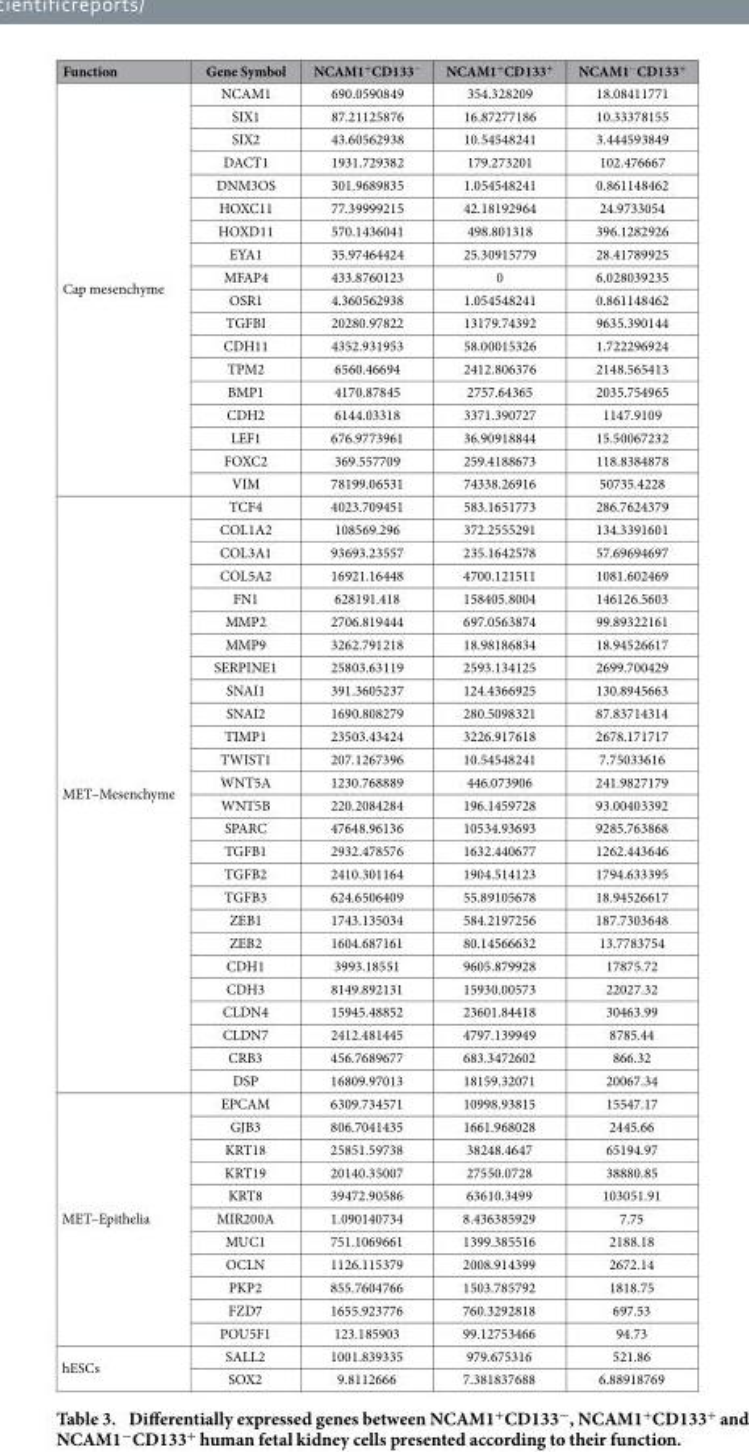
<table><thead><tr><td>Function</td><td>Gene Symbol</td><td>NCAM1<sup>+</sup>CD133<sup>−</sup></td><td>NCAM1<sup>+</sup>CD133<sup>+</sup></td><td>NCAM1<sup>−</sup>CD133<sup>+</sup></td></tr></thead><tbody><tr><td rowspan="18">Cap mesenchyme</td><td>NCAM1</td><td>690.0590849</td><td>354.328209</td><td>18.08411771</td></tr><tr><td>SIX1</td><td>87.21125876</td><td>16.87277186</td><td>10.33378155</td></tr><tr><td>SIX2</td><td>43.60562938</td><td>10.54548241</td><td>3.444593849</td></tr><tr><td>DACT1</td><td>1931.729382</td><td>179.273201</td><td>102.476667</td></tr><tr><td>DNM3OS</td><td>301.9689835</td><td>1.054548241</td><td>0.861148462</td></tr><tr><td>HOXC11</td><td>77.39999215</td><td>42.18192964</td><td>24.9733054</td></tr><tr><td>HOXD11</td><td>570.1436041</td><td>498.801318</td><td>396.1282926</td></tr><tr><td>EYA1</td><td>35.97464424</td><td>25.30915779</td><td>28.41789925</td></tr><tr><td>MFAP4</td><td>433.8760123</td><td>0</td><td>6.028039235</td></tr><tr><td>OSR1</td><td>4.360562938</td><td>1.054548241</td><td>0.861148462</td></tr><tr><td>TGFBI</td><td>20280.97822</td><td>13179.74392</td><td>9635.390144</td></tr><tr><td>CDH11</td><td>4352.931953</td><td>58.00015326</td><td>1.722296924</td></tr><tr><td>TPM2</td><td>6560.46694</td><td>2412.806376</td><td>2148.565413</td></tr><tr><td>BMP1</td><td>4170.87845</td><td>2757.64365</td><td>2035.754965</td></tr><tr><td>CDH2</td><td>6144.03318</td><td>3371.390727</td><td>1147.9109</td></tr><tr><td>LEF1</td><td>676.9773961</td><td>36.90918844</td><td>15.50067232</td></tr><tr><td>FOXC2</td><td>369.557709</td><td>259.4188673</td><td>118.8384878</td></tr><tr><td>VIM</td><td>78199.06531</td><td>74338.26916</td><td>50735.4228</td></tr><tr><td rowspan="26">MET–Mesenchyme</td><td>TCF4</td><td>4023.709451</td><td>583.1651773</td><td>286.7624379</td></tr><tr><td>COL1A2</td><td>108569.296</td><td>372.2555291</td><td>134.3391601</td></tr><tr><td>COL3A1</td><td>93693.23557</td><td>235.1642578</td><td>57.69694697</td></tr><tr><td>COL5A2</td><td>16921.16448</td><td>4700.121511</td><td>1081.602469</td></tr><tr><td>FN1</td><td>628191.418</td><td>158405.8004</td><td>146126.5603</td></tr><tr><td>MMP2</td><td>2706.819444</td><td>697.0563874</td><td>99.89322161</td></tr><tr><td>MMP9</td><td>3262.791218</td><td>18.98186834</td><td>18.94526617</td></tr><tr><td>SERPINE1</td><td>25803.63119</td><td>2593.134125</td><td>2699.700429</td></tr><tr><td>SNAI1</td><td>391.3605237</td><td>124.4366925</td><td>130.8945663</td></tr><tr><td>SNAI2</td><td>1690.808279</td><td>280.5098321</td><td>87.83714314</td></tr><tr><td>TIMP1</td><td>23503.43424</td><td>3226.917618</td><td>2678.171717</td></tr><tr><td>TWIST1</td><td>207.1267396</td><td>10.54548241</td><td>7.75033616</td></tr><tr><td>WNT5A</td><td>1230.768889</td><td>446.073906</td><td>241.9827179</td></tr><tr><td>WNT5B</td><td>220.2084284</td><td>196.1459728</td><td>93.00403392</td></tr><tr><td>SPARC</td><td>47648.96136</td><td>10534.93693</td><td>9285.763868</td></tr><tr><td>TGFB1</td><td>2932.478576</td><td>1632.440677</td><td>1262.443646</td></tr><tr><td>TGFB2</td><td>2410.301164</td><td>1904.514123</td><td>1794.633395</td></tr><tr><td>TGFB3</td><td>624.6506409</td><td>55.89105678</td><td>18.94526617</td></tr><tr><td>ZEB1</td><td>1743.135034</td><td>584.2197256</td><td>187.7303648</td></tr><tr><td>ZEB2</td><td>1604.687161</td><td>80.14566632</td><td>13.7783754</td></tr><tr><td>CDH1</td><td>3993.18551</td><td>9605.879928</td><td>17875.72</td></tr><tr><td>CDH3</td><td>8149.892131</td><td>15930.00573</td><td>22027.32</td></tr><tr><td>CLDN4</td><td>15945.48852</td><td>23601.84418</td><td>30463.99</td></tr><tr><td>CLDN7</td><td>2412.481445</td><td>4797.139949</td><td>8785.44</td></tr><tr><td>CRB3</td><td>456.7689677</td><td>683.3472602</td><td>866.32</td></tr><tr><td>DSP</td><td>16809.97013</td><td>18159.32071</td><td>20067.34</td></tr><tr><td rowspan="11">MET–Epithelia</td><td>EPCAM</td><td>6309.734571</td><td>10998.93815</td><td>15547.17</td></tr><tr><td>GJB3</td><td>806.7041435</td><td>1661.968028</td><td>2445.66</td></tr><tr><td>KRT18</td><td>25851.59738</td><td>38248.4647</td><td>65194.97</td></tr><tr><td>KRT19</td><td>20140.35007</td><td>27550.0728</td><td>38880.85</td></tr><tr><td>KRT8</td><td>39472.90586</td><td>63610.3499</td><td>103051.91</td></tr><tr><td>MIR200A</td><td>1.090140734</td><td>8.436385929</td><td>7.75</td></tr><tr><td>MUC1</td><td>751.1069661</td><td>1399.385516</td><td>2188.18</td></tr><tr><td>OCLN</td><td>1126.115379</td><td>2008.914399</td><td>2672.14</td></tr><tr><td>PKP2</td><td>855.7604766</td><td>1503.785792</td><td>1818.75</td></tr><tr><td>FZD7</td><td>1655.923776</td><td>760.3292818</td><td>697.53</td></tr><tr><td>POU5F1</td><td>123.185903</td><td>99.12753466</td><td>94.73</td></tr><tr><td rowspan="2">hESCs</td><td>SALL2</td><td>1001.839335</td><td>979.675316</td><td>521.86</td></tr><tr><td>SOX2</td><td>9.8112666</td><td>7.381837688</td><td>6.88918769</td></tr></tbody></table>